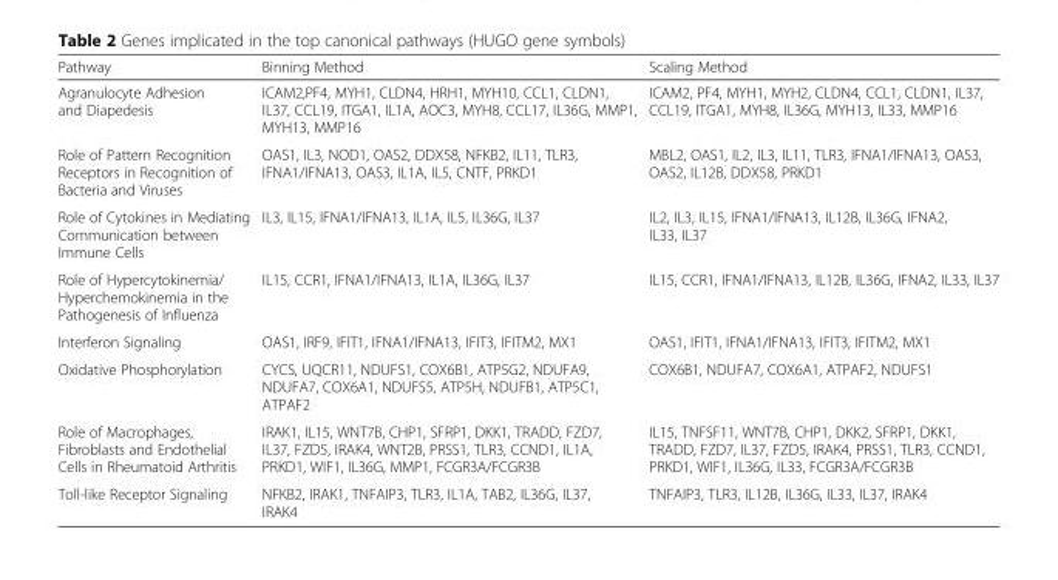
<table><thead><tr><td>Pathway</td><td>Binning Method</td><td>Scaling Method</td></tr></thead><tbody><tr><td>Agranulocyte Adhesion and Diapedesis</td><td>ICAM2,PF4, MYH1, CLDN4, HRH1, MYH10, CCL1, CLDN1, IL37, CCL19, ITGA1, IL1A, AOC3, MYH8, CCL17, IL36G, MMP1, MYH13, MMP16</td><td>ICAM2, PF4, MYH1, MYH2, CLDN4, CCL1, CLDN1, IL37, CCL19, ITGA1, MYH8, IL36G, MYH13, IL33, MMP16</td></tr><tr><td>Role of Pattern Recognition Receptors in Recognition of Bacteria and Viruses</td><td>OAS1, IL3, NOD1, OAS2, DDX58, NFKB2, IL11, TLR3, IFNA1/IFNA13, OAS3, IL1A, IL5, CNTF, PRKD1</td><td>MBL2, OAS1, IL2, IL3, IL11, TLR3, IFNA1/IFNA13, OAS3, OAS2, IL12B, DDX58, PRKD1</td></tr><tr><td>Role of Cytokines in Mediating Communication between Immune Cells</td><td>IL3, IL15, IFNA1/IFNA13, IL1A, IL5, IL36G, IL37</td><td>IL2, IL3, IL15, IFNA1/IFNA13, IL12B, IL36G, IFNA2, IL33, IL37</td></tr><tr><td>Role of Hypercytokinemia/ Hyperchemokinemia in the Pathogenesis of Influenza</td><td>IL15, CCR1, IFNA1/IFNA13, IL1A, IL36G, IL37</td><td>IL15, CCR1, IFNA1/IFNA13, IL12B, IL36G, IFNA2, IL33, IL37</td></tr><tr><td>Interferon Signaling</td><td>OAS1, IRF9, IFIT1, IFNA1/IFNA13, IFIT3, IFITM2, MX1</td><td>OAS1, IFIT1, IFNA1/IFNA13, IFIT3, IFITM2, MX1</td></tr><tr><td>Oxidative Phosphorylation</td><td>CYCS, UQCR11, NDUFS1, COX6B1, ATP5G2, NDUFA9, NDUFA7, COX6A1, NDUFS5, ATP5H, NDUFB1, ATP5C1, ATPAF2</td><td>COX6B1, NDUFA7, COX6A1, ATPAF2, NDUFS1</td></tr><tr><td>Role of Macrophages, Fibroblasts and Endothelial Cells in Rheumatoid Arthritis</td><td>IRAK1, IL15, WNT7B, CHP1, SFRP1, DKK1, TRADD, FZD7, IL37, FZD5, IRAK4, WNT2B, PRSS1, TLR3, CCND1, IL1A, PRKD1, WIF1, IL36G, MMP1, FCGR3A/FCGR3B</td><td>IL15, TNFSF11, WNT7B, CHP1, DKK2, SFRP1, DKK1, TRADD, FZD7, IL37, FZD5, IRAK4, PRSS1, TLR3, CCND1, PRKD1, WIF1, IL36G, IL33, FCGR3A/FCGR3B</td></tr><tr><td>Toll-like Receptor Signaling</td><td>NFKB2, IRAK1, TNFAIP3, TLR3, IL1A, TAB2, IL36G, IL37, IRAK4</td><td>TNFAIP3, TLR3, IL12B, IL36G, IL33, IL37, IRAK4</td></tr></tbody></table>